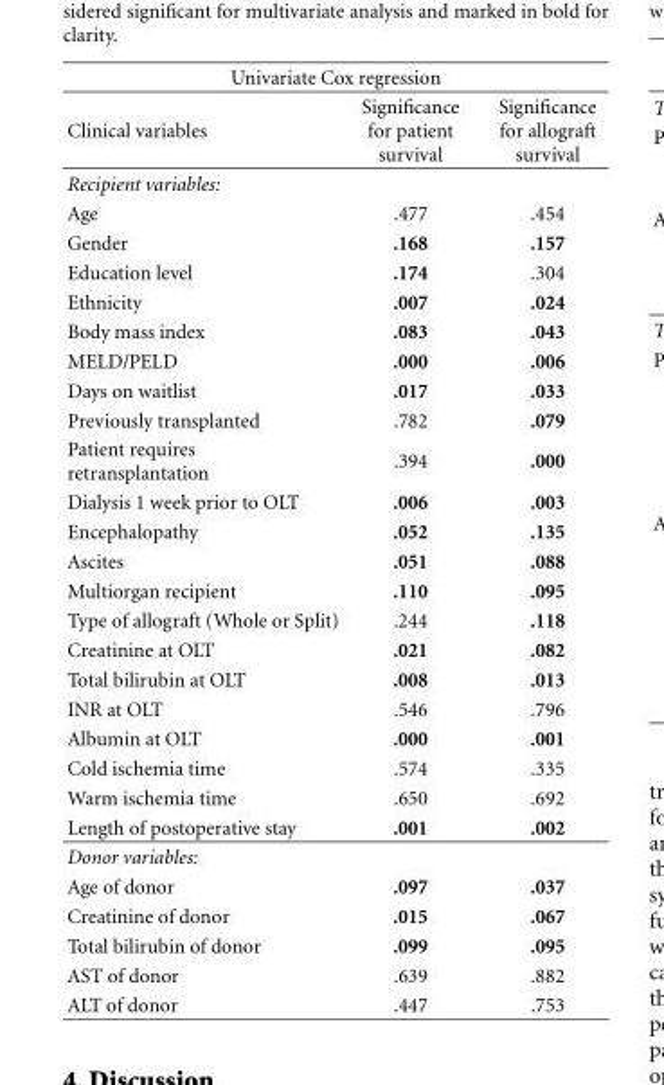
<table><thead><tr><td colspan="3">Univariate Cox regression</td></tr><tr><td>Clinical variables</td><td>Significance for patient survival</td><td>Significance for allograft survival</td></tr></thead><tbody><tr><td colspan="3">Recipient variables:</td></tr><tr><td>Age</td><td>.477</td><td>.454</td></tr><tr><td>Gender</td><td>.168</td><td>.157</td></tr><tr><td>Education level</td><td>.174</td><td>.304</td></tr><tr><td>Ethnicity</td><td>.007</td><td>.024</td></tr><tr><td>Body mass index</td><td>.083</td><td>.043</td></tr><tr><td>MELD/PELD</td><td>.000</td><td>.006</td></tr><tr><td>Days on waitlist</td><td>.017</td><td>.033</td></tr><tr><td>Previously transplanted</td><td>.782</td><td>.079</td></tr><tr><td>Patient requires retransplantation</td><td>.394</td><td>.000</td></tr><tr><td>Dialysis 1 week prior to OLT</td><td>.006</td><td>.003</td></tr><tr><td>Encephalopathy</td><td>.052</td><td>.135</td></tr><tr><td>Ascites</td><td>.051</td><td>.088</td></tr><tr><td>Multiorgan recipient</td><td>.110</td><td>.095</td></tr><tr><td>Type of allograft (Whole or Split)</td><td>.244</td><td>.118</td></tr><tr><td>Creatinine at OLT</td><td>.021</td><td>.082</td></tr><tr><td>Total bilirubin at OLT</td><td>.008</td><td>.013</td></tr><tr><td>INR at OLT</td><td>.546</td><td>.796</td></tr><tr><td>Albumin at OLT</td><td>.000</td><td>.001</td></tr><tr><td>Cold ischemia time</td><td>.574</td><td>.335</td></tr><tr><td>Warm ischemia time</td><td>.650</td><td>.692</td></tr><tr><td>Length of postoperative stay</td><td>.001</td><td>.002</td></tr><tr><td colspan="3">Donor variables:</td></tr><tr><td>Age of donor</td><td>.097</td><td>.037</td></tr><tr><td>Creatinine of donor</td><td>.015</td><td>.067</td></tr><tr><td>Total bilirubin of donor</td><td>.099</td><td>.095</td></tr><tr><td>AST of donor</td><td>.639</td><td>.882</td></tr><tr><td>ALT of donor</td><td>.447</td><td>.753</td></tr></tbody></table>